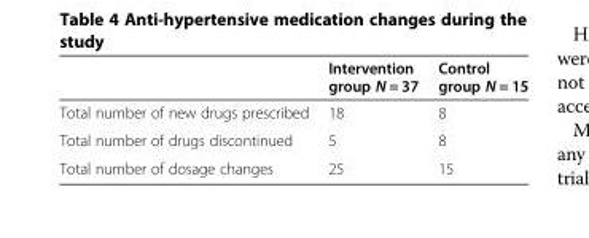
<table><thead><tr><td></td><td>Intervention group N = 37</td><td>Control group N = 15</td></tr></thead><tbody><tr><td>Total number of new drugs prescribed</td><td>18</td><td>8</td></tr><tr><td>Total number of drugs discontinued</td><td>5</td><td>8</td></tr><tr><td>Total number of dosage changes</td><td>25</td><td>15</td></tr></tbody></table>